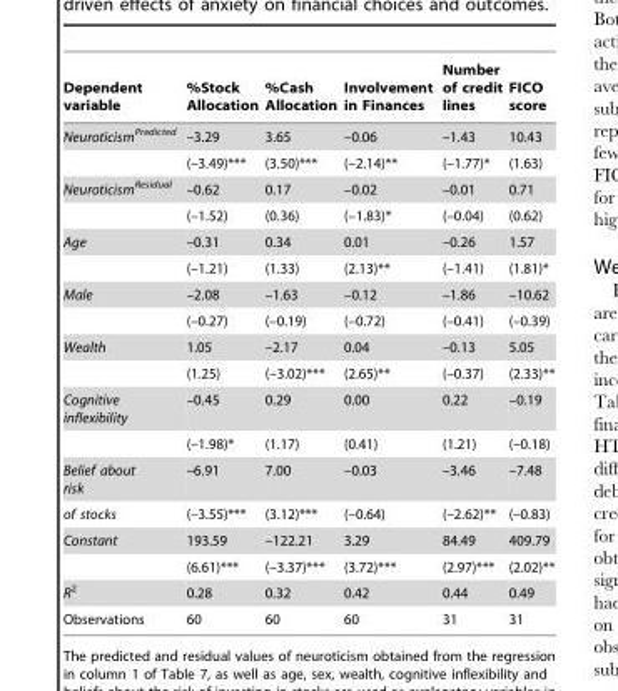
<table><thead><tr><td>Dependent variable</td><td>%Stock Allocation</td><td>%Cash Allocation</td><td>Involvement in Finances</td><td>Number of credit lines</td><td>FICO score</td></tr></thead><tbody><tr><td rowspan="2">Neuroticism<sup>Predicted</sup></td><td>–3.29</td><td>3.65</td><td>–0.06</td><td>–1.43</td><td>10.43</td></tr><tr><td>(–3.49)***</td><td>(3.50)***</td><td>(–2.14)**</td><td>(–1.77)*</td><td>(1.63)</td></tr><tr><td rowspan="2">Neuroticism<sup>Residual</sup></td><td>–0.62</td><td>0.17</td><td>–0.02</td><td>–0.01</td><td>0.71</td></tr><tr><td>(–1.52)</td><td>(0.36)</td><td>(–1.83)*</td><td>(–0.04)</td><td>(0.62)</td></tr><tr><td rowspan="2">Age</td><td>–0.31</td><td>0.34</td><td>0.01</td><td>–0.26</td><td>1.57</td></tr><tr><td>(–1.21)</td><td>(1.33)</td><td>(2.13)**</td><td>(–1.41)</td><td>(1.81)*</td></tr><tr><td rowspan="2">Male</td><td>–2.08</td><td>–1.63</td><td>–0.12</td><td>–1.86</td><td>–10.62</td></tr><tr><td>(–0.27)</td><td>(–0.19)</td><td>(–0.72)</td><td>(–0.41)</td><td>(–0.39)</td></tr><tr><td rowspan="2">Wealth</td><td>1.05</td><td>–2.17</td><td>0.04</td><td>–0.13</td><td>5.05</td></tr><tr><td>(1.25)</td><td>(–3.02)***</td><td>(2.65)**</td><td>(–0.37)</td><td>(2.33)**</td></tr><tr><td rowspan="2">Cognitive inflexibility</td><td>–0.45</td><td>0.29</td><td>0.00</td><td>0.22</td><td>–0.19</td></tr><tr><td>(–1.98)*</td><td>(1.17)</td><td>(0.41)</td><td>(1.21)</td><td>(–0.18)</td></tr><tr><td>Belief about risk</td><td>–6.91</td><td>7.00</td><td>–0.03</td><td>–3.46</td><td>–7.48</td></tr><tr><td>of stocks</td><td>(–3.55)***</td><td>(3.12)***</td><td>(–0.64)</td><td>(–2.62)**</td><td>(–0.83)</td></tr><tr><td rowspan="2">Constant</td><td>193.59</td><td>–122.21</td><td>3.29</td><td>84.49</td><td>409.79</td></tr><tr><td>(6.61)***</td><td>(–3.37)***</td><td>(3.72)***</td><td>(2.97)***</td><td>(2.02)**</td></tr><tr><td>R<sup>2</sup></td><td>0.28</td><td>0.32</td><td>0.42</td><td>0.44</td><td>0.49</td></tr><tr><td>Observations</td><td>60</td><td>60</td><td>60</td><td>31</td><td>31</td></tr></tbody></table>